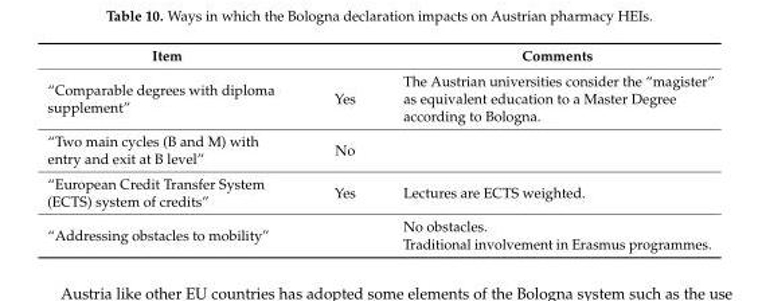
<table><thead><tr><td>Item</td><td></td><td>Comments</td></tr></thead><tbody><tr><td>“Comparable degrees with diploma supplement”</td><td>Yes</td><td>The Austrian universities consider the “magister” as equivalent education to a Master Degree according to Bologna.</td></tr><tr><td>“Two main cycles (B and M) with entry and exit at B level”</td><td>No</td><td></td></tr><tr><td>“European Credit Transfer System (ECTS) system of credits”</td><td>Yes</td><td>Lectures are ECTS weighted.</td></tr><tr><td>“Addressing obstacles to mobility”</td><td></td><td>No obstacles. Traditional involvement in Erasmus programmes.</td></tr></tbody></table>